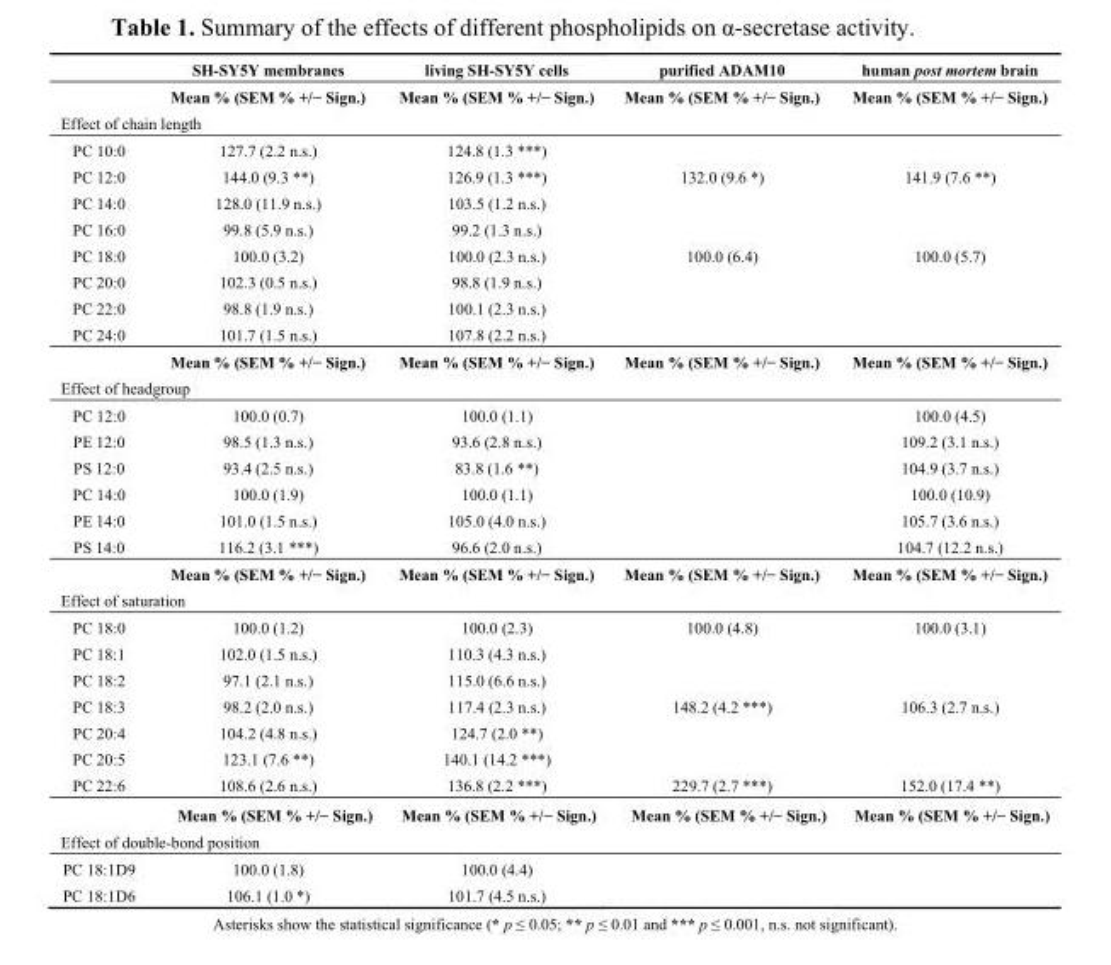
<table><thead><tr><td rowspan="2"></td><td rowspan="2">SH-SY5Y membranes Mean % (SEM % +/− Sign.)</td><td rowspan="2">living SH-SY5Y cells Mean % (SEM % +/− Sign.)</td><td rowspan="2">purified ADAM10 Mean % (SEM % +/− Sign.)</td><td rowspan="2">human post mortem brain Mean % (SEM % +/− Sign.)</td></tr><tr></tr><tr><td colspan="5">Effect of chain length</td></tr></thead><tbody><tr><td>PC 10:0</td><td>127.7 (2.2 n.s.)</td><td>124.8 (1.3 ***)</td><td></td><td></td></tr><tr><td>PC 12:0</td><td>144.0 (9.3 **)</td><td>126.9 (1.3 ***)</td><td>132.0 (9.6 *)</td><td>141.9 (7.6 **)</td></tr><tr><td>PC 14:0</td><td>128.0 (11.9 n.s.)</td><td>103.5 (1.2 n.s.)</td><td></td><td></td></tr><tr><td>PC 16:0</td><td>99.8 (5.9 n.s.)</td><td>99.2 (1.3 n.s.)</td><td></td><td></td></tr><tr><td>PC 18:0</td><td>100.0 (3.2)</td><td>100.0 (2.3 n.s.)</td><td>100.0 (6.4)</td><td>100.0 (5.7)</td></tr><tr><td>PC 20:0</td><td>102.3 (0.5 n.s.)</td><td>98.8 (1.9 n.s.)</td><td></td><td></td></tr><tr><td>PC 22:0</td><td>98.8 (1.9 n.s.)</td><td>100.1 (2.3 n.s.)</td><td></td><td></td></tr><tr><td rowspan="2">PC 24:0</td><td>101.7 (1.5 n.s.)</td><td>107.8 (2.2 n.s.)</td><td></td><td></td></tr><tr><td>Mean % (SEM % +/− Sign.)</td><td>Mean % (SEM % +/− Sign.)</td><td>Mean % (SEM % +/− Sign.)</td><td>Mean % (SEM % +/− Sign.)</td></tr><tr><td colspan="5">Effect of headgroup</td></tr><tr><td>PC 12:0</td><td>100.0 (0.7)</td><td>100.0 (1.1)</td><td></td><td>100.0 (4.5)</td></tr><tr><td>PE 12:0</td><td>98.5 (1.3 n.s.)</td><td>93.6 (2.8 n.s.)</td><td></td><td>109.2 (3.1 n.s.)</td></tr><tr><td>PS 12:0</td><td>93.4 (2.5 n.s.)</td><td>83.8 (1.6 **)</td><td></td><td>104.9 (3.7 n.s.)</td></tr><tr><td>PC 14:0</td><td>100.0 (1.9)</td><td>100.0 (1.1)</td><td></td><td>100.0 (10.9)</td></tr><tr><td>PE 14:0</td><td>101.0 (1.5 n.s.)</td><td>105.0 (4.0 n.s.)</td><td></td><td>105.7 (3.6 n.s.)</td></tr><tr><td rowspan="2">PS 14:0</td><td>116.2 (3.1 ***)</td><td>96.6 (2.0 n.s.)</td><td></td><td>104.7 (12.2 n.s.)</td></tr><tr><td>Mean % (SEM % +/− Sign.)</td><td>Mean % (SEM % +/− Sign.)</td><td>Mean % (SEM % +/− Sign.)</td><td>Mean % (SEM % +/− Sign.)</td></tr><tr><td colspan="5">Effect of saturation</td></tr><tr><td>PC 18:0</td><td>100.0 (1.2)</td><td>100.0 (2.3)</td><td>100.0 (4.8)</td><td>100.0 (3.1)</td></tr><tr><td>PC 18:1</td><td>102.0 (1.5 n.s.)</td><td>110.3 (4.3 n.s.)</td><td></td><td></td></tr><tr><td>PC 18:2</td><td>97.1 (2.1 n.s.)</td><td>115.0 (6.6 n.s.)</td><td></td><td></td></tr><tr><td>PC 18:3</td><td>98.2 (2.0 n.s.)</td><td>117.4 (2.3 n.s.)</td><td>148.2 (4.2 ***)</td><td>106.3 (2.7 n.s.)</td></tr><tr><td>PC 20:4</td><td>104.2 (4.8 n.s.)</td><td>124.7 (2.0 **)</td><td></td><td></td></tr><tr><td>PC 20:5</td><td>123.1 (7.6 **)</td><td>140.1 (14.2 ***)</td><td></td><td></td></tr><tr><td rowspan="2">PC 22:6</td><td>108.6 (2.6 n.s.)</td><td>136.8 (2.2 ***)</td><td>229.7 (2.7 ***)</td><td>152.0 (17.4 **)</td></tr><tr><td>Mean % (SEM % +/− Sign.)</td><td>Mean % (SEM % +/− Sign.)</td><td>Mean % (SEM % +/− Sign.)</td><td>Mean % (SEM % +/− Sign.)</td></tr><tr><td colspan="5">Effect of double-bond position</td></tr><tr><td>PC 18:1D9</td><td>100.0 (1.8)</td><td>100.0 (4.4)</td><td></td><td></td></tr><tr><td>PC 18:1D6</td><td>106.1 (1.0 *)</td><td>101.7 (4.5 n.s.)</td><td></td><td></td></tr></tbody></table>